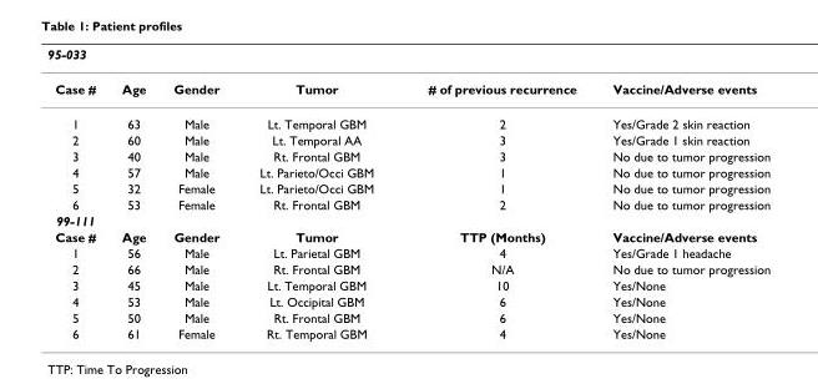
<table><thead><tr><td>95-033</td><td></td><td></td><td></td><td></td><td></td></tr></thead><tbody><tr><td>Case #</td><td>Age</td><td>Gender</td><td>Tumor</td><td># of previous recurrence</td><td>Vaccine/Adverse events</td></tr><tr><td>1</td><td>63</td><td>Male</td><td>Lt. Temporal GBM</td><td>2</td><td>Yes/Grade 2 skin reaction</td></tr><tr><td>2</td><td>60</td><td>Male</td><td>Lt. Temporal AA</td><td>3</td><td>Yes/Grade 1 skin reaction</td></tr><tr><td>3</td><td>40</td><td>Male</td><td>Rt. Frontal GBM</td><td>3</td><td>No due to tumor progression</td></tr><tr><td>4</td><td>57</td><td>Male</td><td>Lt. Parieto/Occi GBM</td><td>1</td><td>No due to tumor progression</td></tr><tr><td>5</td><td>32</td><td>Female</td><td>Lt. Parieto/Occi GBM</td><td>1</td><td>No due to tumor progression</td></tr><tr><td>6</td><td>53</td><td>Female</td><td>Rt. Frontal GBM</td><td>2</td><td>No due to tumor progression</td></tr><tr><td colspan="6">99-111</td></tr><tr><td>Case #</td><td>Age</td><td>Gender</td><td>Tumor</td><td>TTP (Months)</td><td>Vaccine/Adverse events</td></tr><tr><td>1</td><td>56</td><td>Male</td><td>Lt. Parietal GBM</td><td>4</td><td>Yes/Grade 1 headache</td></tr><tr><td>2</td><td>66</td><td>Male</td><td>Rt. Frontal GBM</td><td>N/A</td><td>No due to tumor progression</td></tr><tr><td>3</td><td>45</td><td>Male</td><td>Lt. Temporal GBM</td><td>10</td><td>Yes/None</td></tr><tr><td>4</td><td>53</td><td>Male</td><td>Lt. Occipital GBM</td><td>6</td><td>Yes/None</td></tr><tr><td>5</td><td>50</td><td>Male</td><td>Rt. Frontal GBM</td><td>6</td><td>Yes/None</td></tr><tr><td>6</td><td>61</td><td>Female</td><td>Rt. Temporal GBM</td><td>4</td><td>Yes/None</td></tr></tbody></table>